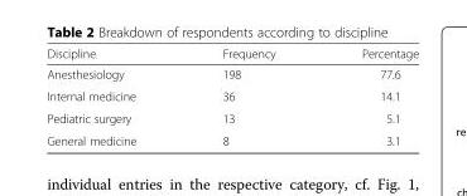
<table><thead><tr><td>Discipline</td><td>Frequency</td><td>Percentage</td></tr></thead><tbody><tr><td>Anesthesiology</td><td>198</td><td>77.6</td></tr><tr><td>Internal medicine</td><td>36</td><td>14.1</td></tr><tr><td>Pediatric surgery</td><td>13</td><td>5.1</td></tr><tr><td>General medicine</td><td>8</td><td>3.1</td></tr></tbody></table>